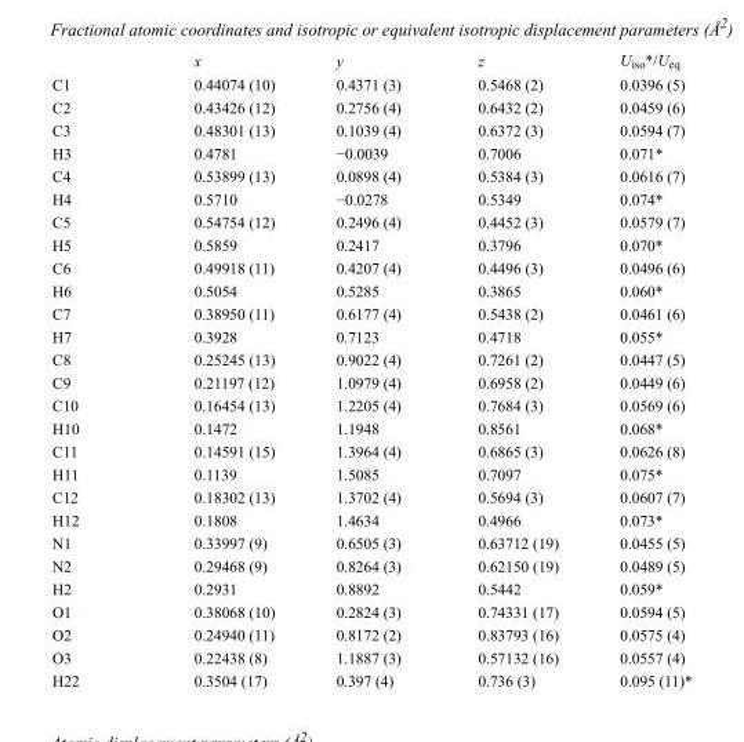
<table><thead><tr><td></td><td>x</td><td>y</td><td>z</td><td>U<sub>iso</sub>*/U<sub>eq</sub></td></tr></thead><tbody><tr><td>C1</td><td>0.44074 (10)</td><td>0.4371 (3)</td><td>0.5468 (2)</td><td>0.0396 (5)</td></tr><tr><td>C2</td><td>0.43426 (12)</td><td>0.2756 (4)</td><td>0.6432 (2)</td><td>0.0459 (6)</td></tr><tr><td>C3</td><td>0.48301 (13)</td><td>0.1039 (4)</td><td>0.6372 (3)</td><td>0.0594 (7)</td></tr><tr><td>H3</td><td>0.4781</td><td>−0.0039</td><td>0.7006</td><td>0.071*</td></tr><tr><td>C4</td><td>0.53899 (13)</td><td>0.0898 (4)</td><td>0.5384 (3)</td><td>0.0616 (7)</td></tr><tr><td>H4</td><td>0.5710</td><td>−0.0278</td><td>0.5349</td><td>0.074*</td></tr><tr><td>C5</td><td>0.54754 (12)</td><td>0.2496 (4)</td><td>0.4452 (3)</td><td>0.0579 (7)</td></tr><tr><td>H5</td><td>0.5859</td><td>0.2417</td><td>0.3796</td><td>0.070*</td></tr><tr><td>C6</td><td>0.49918 (11)</td><td>0.4207 (4)</td><td>0.4496 (3)</td><td>0.0496 (6)</td></tr><tr><td>H6</td><td>0.5054</td><td>0.5285</td><td>0.3865</td><td>0.060*</td></tr><tr><td>C7</td><td>0.38950 (11)</td><td>0.6177 (4)</td><td>0.5438 (2)</td><td>0.0461 (6)</td></tr><tr><td>H7</td><td>0.3928</td><td>0.7123</td><td>0.4718</td><td>0.055*</td></tr><tr><td>C8</td><td>0.25245 (13)</td><td>0.9022 (4)</td><td>0.7261 (2)</td><td>0.0447 (5)</td></tr><tr><td>C9</td><td>0.21197 (12)</td><td>1.0979 (4)</td><td>0.6958 (2)</td><td>0.0449 (6)</td></tr><tr><td>C10</td><td>0.16454 (13)</td><td>1.2205 (4)</td><td>0.7684 (3)</td><td>0.0569 (6)</td></tr><tr><td>H10</td><td>0.1472</td><td>1.1948</td><td>0.8561</td><td>0.068*</td></tr><tr><td>C11</td><td>0.14591 (15)</td><td>1.3964 (4)</td><td>0.6865 (3)</td><td>0.0626 (8)</td></tr><tr><td>H11</td><td>0.1139</td><td>1.5085</td><td>0.7097</td><td>0.075*</td></tr><tr><td>C12</td><td>0.18302 (13)</td><td>1.3702 (4)</td><td>0.5694 (3)</td><td>0.0607 (7)</td></tr><tr><td>H12</td><td>0.1808</td><td>1.4634</td><td>0.4966</td><td>0.073*</td></tr><tr><td>N1</td><td>0.33997 (9)</td><td>0.6505 (3)</td><td>0.63712 (19)</td><td>0.0455 (5)</td></tr><tr><td>N2</td><td>0.29468 (9)</td><td>0.8264 (3)</td><td>0.62150 (19)</td><td>0.0489 (5)</td></tr><tr><td>H2</td><td>0.2931</td><td>0.8892</td><td>0.5442</td><td>0.059*</td></tr><tr><td>O1</td><td>0.38068 (10)</td><td>0.2824 (3)</td><td>0.74331 (17)</td><td>0.0594 (5)</td></tr><tr><td>O2</td><td>0.24940 (11)</td><td>0.8172 (2)</td><td>0.83793 (16)</td><td>0.0575 (4)</td></tr><tr><td>O3</td><td>0.22438 (8)</td><td>1.1887 (3)</td><td>0.57132 (16)</td><td>0.0557 (4)</td></tr><tr><td>H22</td><td>0.3504 (17)</td><td>0.397 (4)</td><td>0.736 (3)</td><td>0.095 (11)*</td></tr></tbody></table>